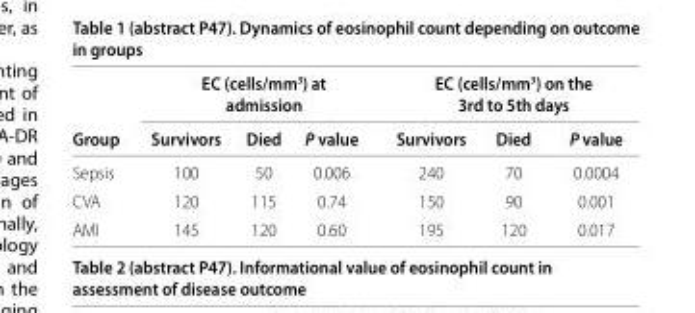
<table><thead><tr><td rowspan="2">Group</td><td colspan="3">EC (cells/mm<sup>3</sup>) at admission</td><td colspan="3">EC (cells/mm<sup>3</sup>) on the 3rd to 5th days</td></tr><tr><td>Survivors</td><td>Died</td><td>P value</td><td>Survivors</td><td>Died</td><td>P value</td></tr></thead><tbody><tr><td>Sepsis</td><td>100</td><td>50</td><td>0.006</td><td>240</td><td>70</td><td>0.0004</td></tr><tr><td>CVA</td><td>120</td><td>115</td><td>0.74</td><td>150</td><td>90</td><td>0.001</td></tr><tr><td>AMI</td><td>145</td><td>120</td><td>0.60</td><td>195</td><td>120</td><td>0.017</td></tr></tbody></table>